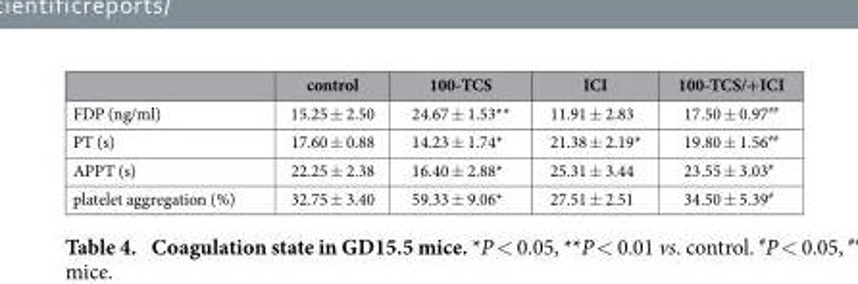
<table><thead><tr><td></td><td>control</td><td>100-TCS</td><td>ICI</td><td>100-TCS/+ICI</td></tr></thead><tbody><tr><td>FDP (ng/ml)</td><td>15.25 ± 2.50</td><td>24.67 ± 1.53**</td><td>11.91 ± 2.83</td><td>17.50 ± 0.97##</td></tr><tr><td>PT (s)</td><td>17.60 ± 0.88</td><td>14.23 ± 1.74*</td><td>21.38 ± 2.19*</td><td>19.80 ± 1.56##</td></tr><tr><td>APPT (s)</td><td>22.25 ± 2.38</td><td>16.40 ± 2.88*</td><td>25.31 ± 3.44</td><td>23.55 ± 3.03#</td></tr><tr><td>platelet aggregation (%)</td><td>32.75 ± 3.40</td><td>59.33 ± 9.06*</td><td>27.51 ± 2.51</td><td>34.50 ± 5.39#</td></tr></tbody></table>